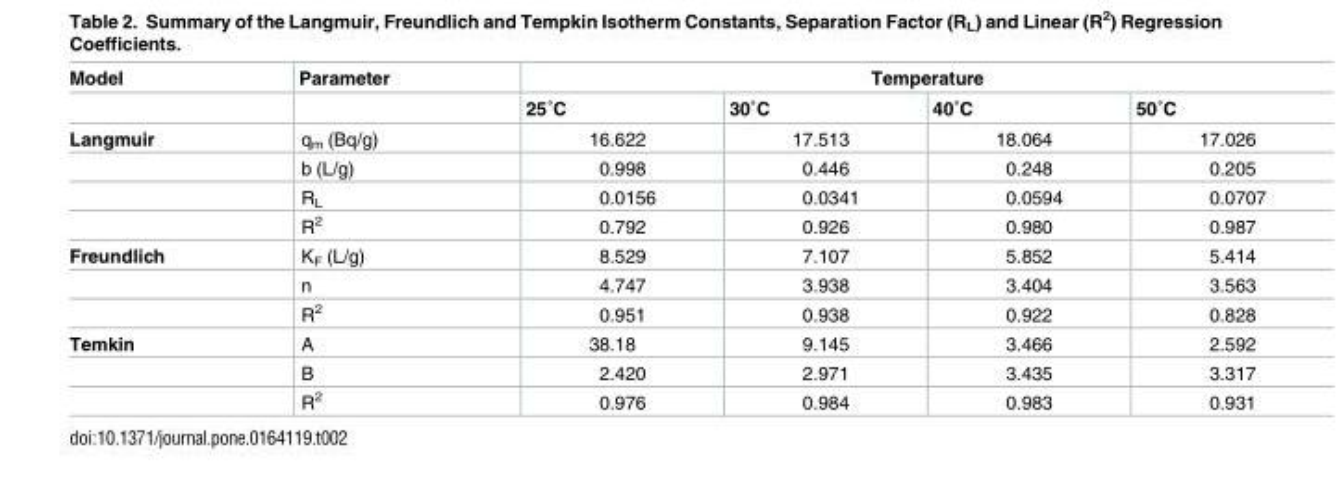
<table><thead><tr><td rowspan="2">Model</td><td rowspan="2">Parameter</td><td colspan="4">Temperature</td></tr><tr><td>25˚C</td><td>30˚C</td><td>40˚C</td><td>50˚C</td></tr></thead><tbody><tr><td rowspan="4">Langmuir</td><td>q<sub>m</sub> (Bq/g)</td><td>16.622</td><td>17.513</td><td>18.064</td><td>17.026</td></tr><tr><td>b (L/g)</td><td>0.998</td><td>0.446</td><td>0.248</td><td>0.205</td></tr><tr><td>R<sub>L</sub></td><td>0.0156</td><td>0.0341</td><td>0.0594</td><td>0.0707</td></tr><tr><td>R<sup>2</sup></td><td>0.792</td><td>0.926</td><td>0.980</td><td>0.987</td></tr><tr><td rowspan="3">Freundlich</td><td>K<sub>F</sub> (L/g)</td><td>8.529</td><td>7.107</td><td>5.852</td><td>5.414</td></tr><tr><td>n</td><td>4.747</td><td>3.938</td><td>3.404</td><td>3.563</td></tr><tr><td>R<sup>2</sup></td><td>0.951</td><td>0.938</td><td>0.922</td><td>0.828</td></tr><tr><td rowspan="3">Temkin</td><td>A</td><td>38.18</td><td>9.145</td><td>3.466</td><td>2.592</td></tr><tr><td>B</td><td>2.420</td><td>2.971</td><td>3.435</td><td>3.317</td></tr><tr><td>R<sup>2</sup></td><td>0.976</td><td>0.984</td><td>0.983</td><td>0.931</td></tr></tbody></table>